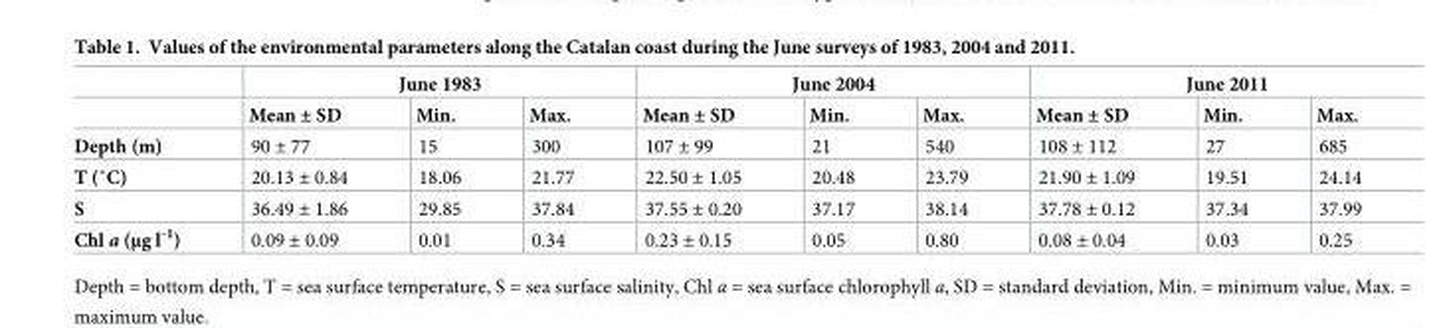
<table><thead><tr><td rowspan="2"></td><td colspan="3">June 1983</td><td colspan="3">June 2004</td><td colspan="3">June 2011</td></tr><tr><td>Mean ± SD</td><td>Min.</td><td>Max.</td><td>Mean ± SD</td><td>Min.</td><td>Max.</td><td>Mean ± SD</td><td>Min.</td><td>Max.</td></tr></thead><tbody><tr><td>Depth (m)</td><td>90 ± 77</td><td>15</td><td>300</td><td>107 ± 99</td><td>21</td><td>540</td><td>108 ± 112</td><td>27</td><td>685</td></tr><tr><td>T (˚C)</td><td>20.13 ± 0.84</td><td>18.06</td><td>21.77</td><td>22.50 ± 1.05</td><td>20.48</td><td>23.79</td><td>21.90 ± 1.09</td><td>19.51</td><td>24.14</td></tr><tr><td>S</td><td>36.49 ± 1.86</td><td>29.85</td><td>37.84</td><td>37.55 ± 0.20</td><td>37.17</td><td>38.14</td><td>37.78 ± 0.12</td><td>37.34</td><td>37.99</td></tr><tr><td>Chl a (μg l<sup>-1</sup>)</td><td>0.09 ± 0.09</td><td>0.01</td><td>0.34</td><td>0.23 ± 0.15</td><td>0.05</td><td>0.80</td><td>0.08 ± 0.04</td><td>0.03</td><td>0.25</td></tr></tbody></table>